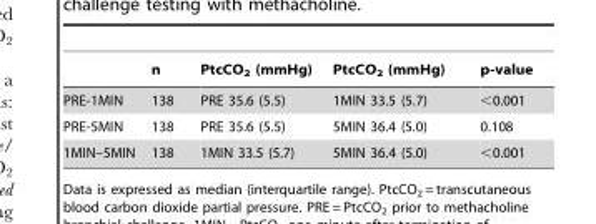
<table><thead><tr><td></td><td>n</td><td>PtcCO<sub>2</sub> (mmHg)</td><td>PtcCO<sub>2</sub> (mmHg)</td><td>p-value</td></tr></thead><tbody><tr><td>PRE-1MIN</td><td>138</td><td>PRE 35.6 (5.5)</td><td>1MIN 33.5 (5.7)</td><td>&lt;0.001</td></tr><tr><td>PRE-5MIN</td><td>138</td><td>PRE 35.6 (5.5)</td><td>5MIN 36.4 (5.0)</td><td>0.108</td></tr><tr><td>1MIN–5MIN</td><td>138</td><td>1MIN 33.5 (5.7)</td><td>5MIN 36.4 (5.0)</td><td>&lt;0.001</td></tr></tbody></table>